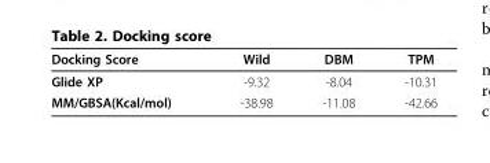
<table><thead><tr><td>Docking Score</td><td>Wild</td><td>DBM</td><td>TPM</td></tr></thead><tbody><tr><td>Glide XP</td><td>-9.32</td><td>-8.04</td><td>-10.31</td></tr><tr><td>MM/GBSA(Kcal/mol)</td><td>-38.98</td><td>-11.08</td><td>-42.66</td></tr></tbody></table>